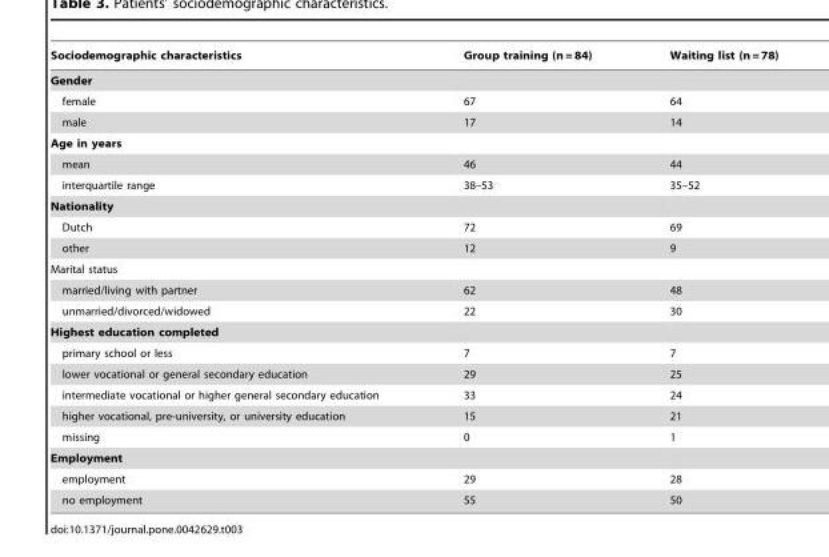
<table><thead><tr><td>Sociodemographic characteristics</td><td>Group training (n = 84)</td><td>Waiting list (n = 78)</td></tr></thead><tbody><tr><td colspan="3">Gender</td></tr><tr><td>female</td><td>67</td><td>64</td></tr><tr><td>male</td><td>17</td><td>14</td></tr><tr><td colspan="3">Age in years</td></tr><tr><td>mean</td><td>46</td><td>44</td></tr><tr><td>interquartile range</td><td>38–53</td><td>35–52</td></tr><tr><td colspan="3">Nationality</td></tr><tr><td>Dutch</td><td>72</td><td>69</td></tr><tr><td>other</td><td>12</td><td>9</td></tr><tr><td colspan="3">Marital status</td></tr><tr><td>married/living with partner</td><td>62</td><td>48</td></tr><tr><td>unmarried/divorced/widowed</td><td>22</td><td>30</td></tr><tr><td colspan="3">Highest education completed</td></tr><tr><td>primary school or less</td><td>7</td><td>7</td></tr><tr><td>lower vocational or general secondary education</td><td>29</td><td>25</td></tr><tr><td>intermediate vocational or higher general secondary education</td><td>33</td><td>24</td></tr><tr><td>higher vocational, pre-university, or university education</td><td>15</td><td>21</td></tr><tr><td>missing</td><td>0</td><td>1</td></tr><tr><td colspan="3">Employment</td></tr><tr><td>employment</td><td>29</td><td>28</td></tr><tr><td>no employment</td><td>55</td><td>50</td></tr></tbody></table>